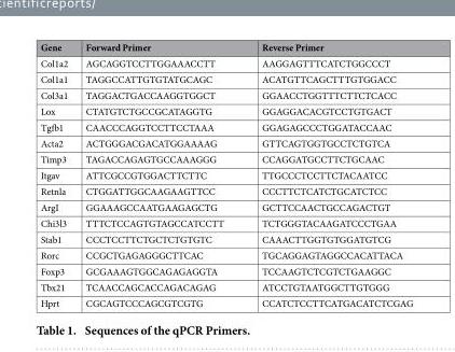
<table><thead><tr><td>Gene</td><td>Forward Primer</td><td>Reverse Primer</td></tr></thead><tbody><tr><td>Col1a2</td><td>AGCAGGTCCTTGGAAACCTT</td><td>AAGGAGTTTCATCTGGCCCT</td></tr><tr><td>Col1a1</td><td>TAGGCCATTGTGTATGCAGC</td><td>ACATGTTCAGCTTTGTGGACC</td></tr><tr><td>Col3a1</td><td>TAGGACTGACCAAGGTGGCT</td><td>GGAACCTGGTTTCTTCTCACC</td></tr><tr><td>Lox</td><td>CTATGTCTGCCGCATAGGTG</td><td>GGAGGACACGTCCTGTGACT</td></tr><tr><td>Tgfb1</td><td>CAACCCAGGTCCTTCCTAAA</td><td>GGAGAGCCCTGGATACCAAC</td></tr><tr><td>Acta2</td><td>ACTGGGACGACATGGAAAAG</td><td>GTTCAGTGGTGCCTCTGTCA</td></tr><tr><td>Timp3</td><td>TAGACCAGAGTGCCAAAGGG</td><td>CCAGGATGCCTTCTGCAAC</td></tr><tr><td>Itgav</td><td>ATTCGCCGTGGACTTCTTC</td><td>TTGCCCTCCTTCTACAATCC</td></tr><tr><td>Retnla</td><td>CTGGATTGGCAAGAAGTTCC</td><td>CCCTTCTCATCTGCATCTCC</td></tr><tr><td>ArgI</td><td>GGAAAGCCAATGAAGAGCTG</td><td>GCTTCCAACTGCCAGACTGT</td></tr><tr><td>Chi3l3</td><td>TTTCTCCAGTGTAGCCATCCTT</td><td>TCTGGGTACAAGATCCCTGAA</td></tr><tr><td>Stab1</td><td>CCCTCCTTCTGCTCTGTGTC</td><td>CAAACTTGGTGTGGATGTCG</td></tr><tr><td>Rorc</td><td>CCGCTGAGAGGGCTTCAC</td><td>TGCAGGAGTAGGCCACATTACA</td></tr><tr><td>Foxp3</td><td>GCGAAAGTGGCAGAGAGGTA</td><td>TCCAAGTCTCGTCTGAAGGC</td></tr><tr><td>Tbx21</td><td>TCAACCAGCACCAGACAGAG</td><td>ATCCTGTAATGGCTTGTGGG</td></tr><tr><td>Hprt</td><td>CGCAGTCCCAGCGTCGTG</td><td>CCATCTCCTTCATGACATCTCGAG</td></tr></tbody></table>